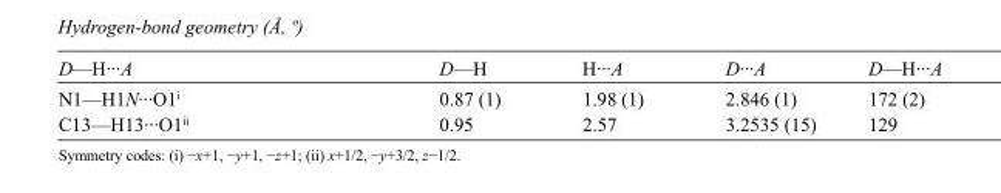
<table><tbody><tr><td>D—H···A</td><td>D—H</td><td>H···A</td><td>D···A</td><td>D—H···A</td></tr><tr><td>N1—H1N···O1<sup>i</sup></td><td>0.87 (1)</td><td>1.98 (1)</td><td>2.846 (1)</td><td>172 (2)</td></tr><tr><td>C13—H13···O1<sup>ii</sup></td><td>0.95</td><td>2.57</td><td>3.2535 (15)</td><td>129</td></tr></tbody></table>